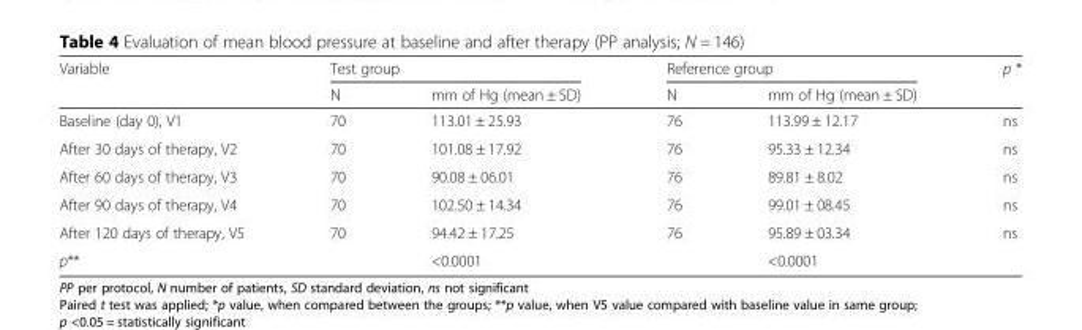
<table><thead><tr><td rowspan="2">Variable</td><td colspan="2">Test group</td><td colspan="2">Reference group</td><td rowspan="2">p *</td></tr><tr><td>N</td><td>mm of Hg (mean ± SD)</td><td>N</td><td>mm of Hg (mean ± SD)</td></tr></thead><tbody><tr><td>Baseline (day 0), V1</td><td>70</td><td>113.01 ± 25.93</td><td>76</td><td>113.99 ± 12.17</td><td>ns</td></tr><tr><td>After 30 days of therapy, V2</td><td>70</td><td>101.08 ± 17.92</td><td>76</td><td>95.33 ± 12.34</td><td>ns</td></tr><tr><td>After 60 days of therapy, V3</td><td>70</td><td>90.08 ± 06.01</td><td>76</td><td>89.81 ± 8.02</td><td>ns</td></tr><tr><td>After 90 days of therapy, V4</td><td>70</td><td>102.50 ± 14.34</td><td>76</td><td>99.01 ± 08.45</td><td>ns</td></tr><tr><td>After 120 days of therapy, V5</td><td>70</td><td>94.42 ± 17.25</td><td>76</td><td>95.89 ± 03.34</td><td>ns</td></tr><tr><td>p**</td><td></td><td>&lt;0.0001</td><td></td><td>&lt;0.0001</td><td></td></tr></tbody></table>